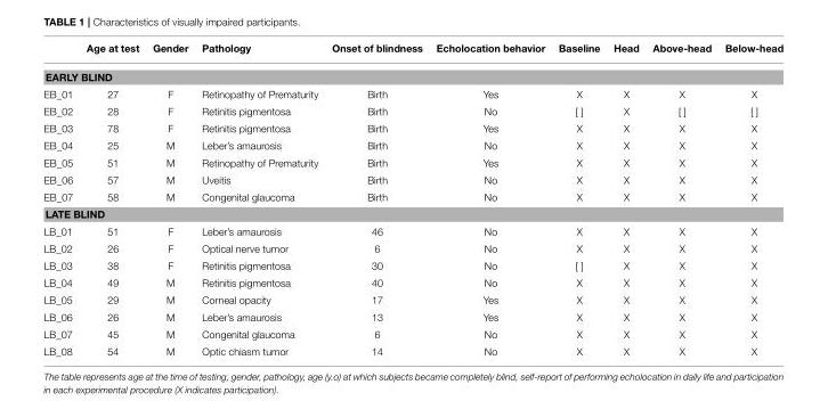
<table><thead><tr><td></td><td>Age at test</td><td>Gender</td><td>Pathology</td><td>Onset of blindness</td><td>Echolocation behavior</td><td>Baseline</td><td>Head</td><td>Above-head</td><td>Below-head</td></tr></thead><tbody><tr><td colspan="10">EARLY BLIND</td></tr><tr><td>EB_01</td><td>27</td><td>F</td><td>Retinopathy of Prematurity</td><td>Birth</td><td>Yes</td><td>X</td><td>X</td><td>X</td><td>X</td></tr><tr><td>EB_02</td><td>28</td><td>F</td><td>Retinitis pigmentosa</td><td>Birth</td><td>No</td><td>[ ]</td><td>X</td><td>[ ]</td><td>[ ]</td></tr><tr><td>EB_03</td><td>78</td><td>F</td><td>Retinitis pigmentosa</td><td>Birth</td><td>Yes</td><td>X</td><td>X</td><td>X</td><td>X</td></tr><tr><td>EB_04</td><td>25</td><td>M</td><td>Leber’s amaurosis</td><td>Birth</td><td>No</td><td>X</td><td>X</td><td>X</td><td>X</td></tr><tr><td>EB_05</td><td>51</td><td>M</td><td>Retinopathy of Prematurity</td><td>Birth</td><td>Yes</td><td>X</td><td>X</td><td>X</td><td>X</td></tr><tr><td>EB_06</td><td>57</td><td>M</td><td>Uveitis</td><td>Birth</td><td>No</td><td>X</td><td>X</td><td>X</td><td>X</td></tr><tr><td>EB_07</td><td>58</td><td>M</td><td>Congenital glaucoma</td><td>Birth</td><td>No</td><td>X</td><td>X</td><td>X</td><td>X</td></tr><tr><td colspan="10">LATE BLIND</td></tr><tr><td>LB_01</td><td>51</td><td>F</td><td>Leber’s amaurosis</td><td>46</td><td>No</td><td>X</td><td>X</td><td>X</td><td>X</td></tr><tr><td>LB_02</td><td>26</td><td>F</td><td>Optical nerve tumor</td><td>6</td><td>No</td><td>X</td><td>X</td><td>X</td><td>X</td></tr><tr><td>LB_03</td><td>38</td><td>F</td><td>Retinitis pigmentosa</td><td>30</td><td>No</td><td>[ ]</td><td>X</td><td>X</td><td>X</td></tr><tr><td>LB_04</td><td>49</td><td>M</td><td>Retinitis pigmentosa</td><td>40</td><td>No</td><td>X</td><td>X</td><td>X</td><td>X</td></tr><tr><td>LB_05</td><td>29</td><td>M</td><td>Corneal opacity</td><td>17</td><td>Yes</td><td>X</td><td>X</td><td>X</td><td>X</td></tr><tr><td>LB_06</td><td>26</td><td>M</td><td>Leber’s amaurosis</td><td>13</td><td>Yes</td><td>X</td><td>X</td><td>X</td><td>X</td></tr><tr><td>LB_07</td><td>45</td><td>M</td><td>Congenital glaucoma</td><td>6</td><td>No</td><td>X</td><td>X</td><td>X</td><td>X</td></tr><tr><td>LB_08</td><td>54</td><td>M</td><td>Optic chiasm tumor</td><td>14</td><td>No</td><td>X</td><td>X</td><td>X</td><td>X</td></tr></tbody></table>